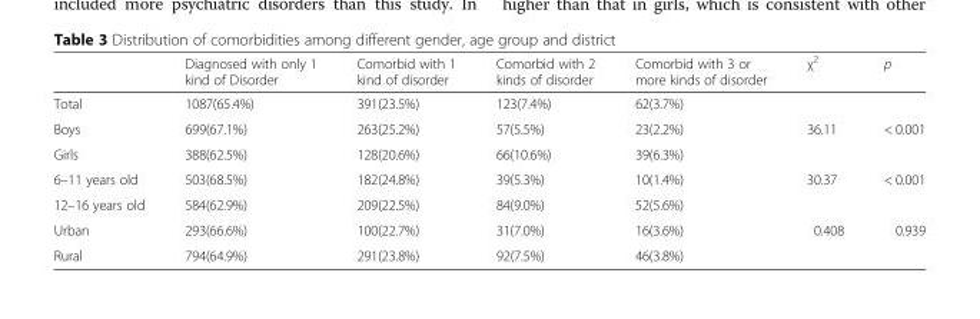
<table><thead><tr><td></td><td>Diagnosed with only 1 kind of Disorder</td><td>Comorbid with 1 kind of disorder</td><td>Comorbid with 2 kinds of disorder</td><td>Comorbid with 3 or more kinds of disorder</td><td>χ<sup>2</sup></td><td>p</td></tr></thead><tbody><tr><td>Total</td><td>1087(65.4%)</td><td>391(23.5%)</td><td>123(7.4%)</td><td>62(3.7%)</td><td></td><td></td></tr><tr><td>Boys</td><td>699(67.1%)</td><td>263(25.2%)</td><td>57(5.5%)</td><td>23(2.2%)</td><td>36.11</td><td>&lt; 0.001</td></tr><tr><td>Girls</td><td>388(62.5%)</td><td>128(20.6%)</td><td>66(10.6%)</td><td>39(6.3%)</td><td></td><td></td></tr><tr><td>6–11 years old</td><td>503(68.5%)</td><td>182(24.8%)</td><td>39(5.3%)</td><td>10(1.4%)</td><td>30.37</td><td>&lt; 0.001</td></tr><tr><td>12–16 years old</td><td>584(62.9%)</td><td>209(22.5%)</td><td>84(9.0%)</td><td>52(5.6%)</td><td></td><td></td></tr><tr><td>Urban</td><td>293(66.6%)</td><td>100(22.7%)</td><td>31(7.0%)</td><td>16(3.6%)</td><td>0.408</td><td>0.939</td></tr><tr><td>Rural</td><td>794(64.9%)</td><td>291(23.8%)</td><td>92(7.5%)</td><td>46(3.8%)</td><td></td><td></td></tr></tbody></table>